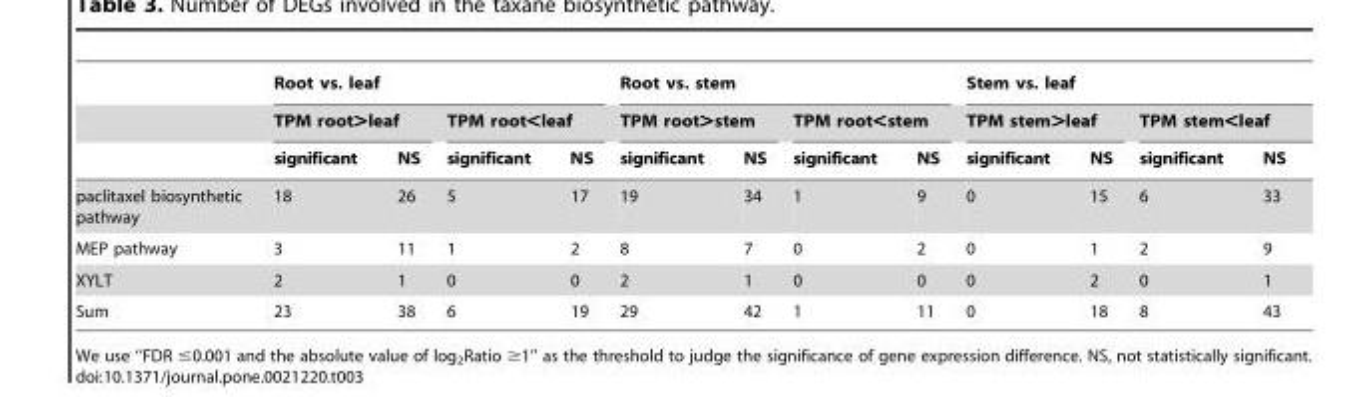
<table><thead><tr><td rowspan="3"></td><td colspan="4">Root vs. leaf</td><td colspan="4">Root vs. stem</td><td colspan="4">Stem vs. leaf</td></tr><tr><td colspan="2">TPM root&gt;leaf</td><td colspan="2">TPM root&lt;leaf</td><td colspan="2">TPM root&gt;stem</td><td colspan="2">TPM root&lt;stem</td><td colspan="2">TPM stem&gt;leaf</td><td colspan="2">TPM stem&lt;leaf</td></tr><tr><td>significant</td><td>NS</td><td>significant</td><td>NS</td><td>significant</td><td>NS</td><td>significant</td><td>NS</td><td>significant</td><td>NS</td><td>significant</td><td>NS</td></tr></thead><tbody><tr><td>paclitaxel biosynthetic pathway</td><td>18</td><td>26</td><td>5</td><td>17</td><td>19</td><td>34</td><td>1</td><td>9</td><td>0</td><td>15</td><td>6</td><td>33</td></tr><tr><td>MEP pathway</td><td>3</td><td>11</td><td>1</td><td>2</td><td>8</td><td>7</td><td>0</td><td>2</td><td>0</td><td>1</td><td>2</td><td>9</td></tr><tr><td>XYLT</td><td>2</td><td>1</td><td>0</td><td>0</td><td>2</td><td>1</td><td>0</td><td>0</td><td>0</td><td>2</td><td>0</td><td>1</td></tr><tr><td>Sum</td><td>23</td><td>38</td><td>6</td><td>19</td><td>29</td><td>42</td><td>1</td><td>11</td><td>0</td><td>18</td><td>8</td><td>43</td></tr></tbody></table>